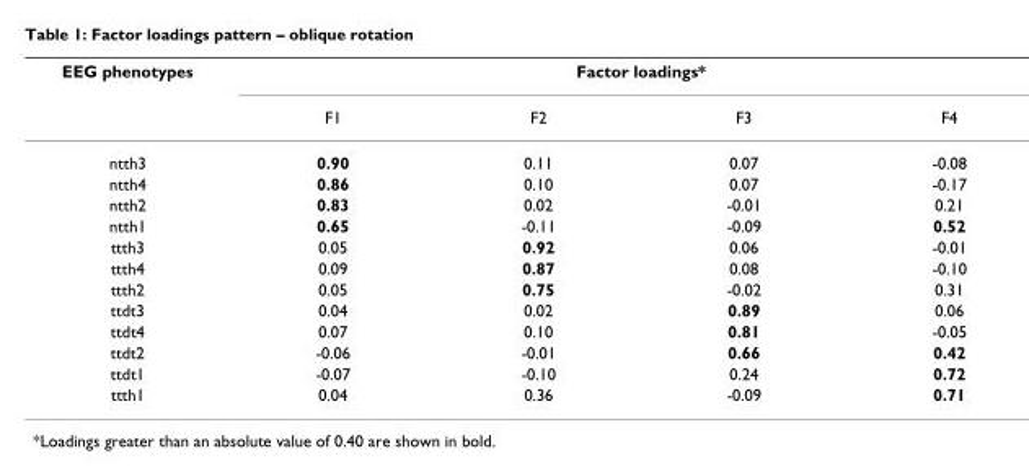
<table><thead><tr><td rowspan="2">EEG phenotypes</td><td colspan="4">Factor loadings*</td></tr><tr><td>F1</td><td>F2</td><td>F3</td><td>F4</td></tr></thead><tbody><tr><td>ntth3</td><td>0.90</td><td>0.11</td><td>0.07</td><td>-0.08</td></tr><tr><td>ntth4</td><td>0.86</td><td>0.10</td><td>0.07</td><td>-0.17</td></tr><tr><td>ntth2</td><td>0.83</td><td>0.02</td><td>-0.01</td><td>0.21</td></tr><tr><td>ntth1</td><td>0.65</td><td>-0.11</td><td>-0.09</td><td>0.52</td></tr><tr><td>ttth3</td><td>0.05</td><td>0.92</td><td>0.06</td><td>-0.01</td></tr><tr><td>ttth4</td><td>0.09</td><td>0.87</td><td>0.08</td><td>-0.10</td></tr><tr><td>ttth2</td><td>0.05</td><td>0.75</td><td>-0.02</td><td>0.31</td></tr><tr><td>ttdt3</td><td>0.04</td><td>0.02</td><td>0.89</td><td>0.06</td></tr><tr><td>ttdt4</td><td>0.07</td><td>0.10</td><td>0.81</td><td>-0.05</td></tr><tr><td>ttdt2</td><td>-0.06</td><td>-0.01</td><td>0.66</td><td>0.42</td></tr><tr><td>ttdt1</td><td>-0.07</td><td>-0.10</td><td>0.24</td><td>0.72</td></tr><tr><td>ttth1</td><td>0.04</td><td>0.36</td><td>-0.09</td><td>0.71</td></tr></tbody></table>